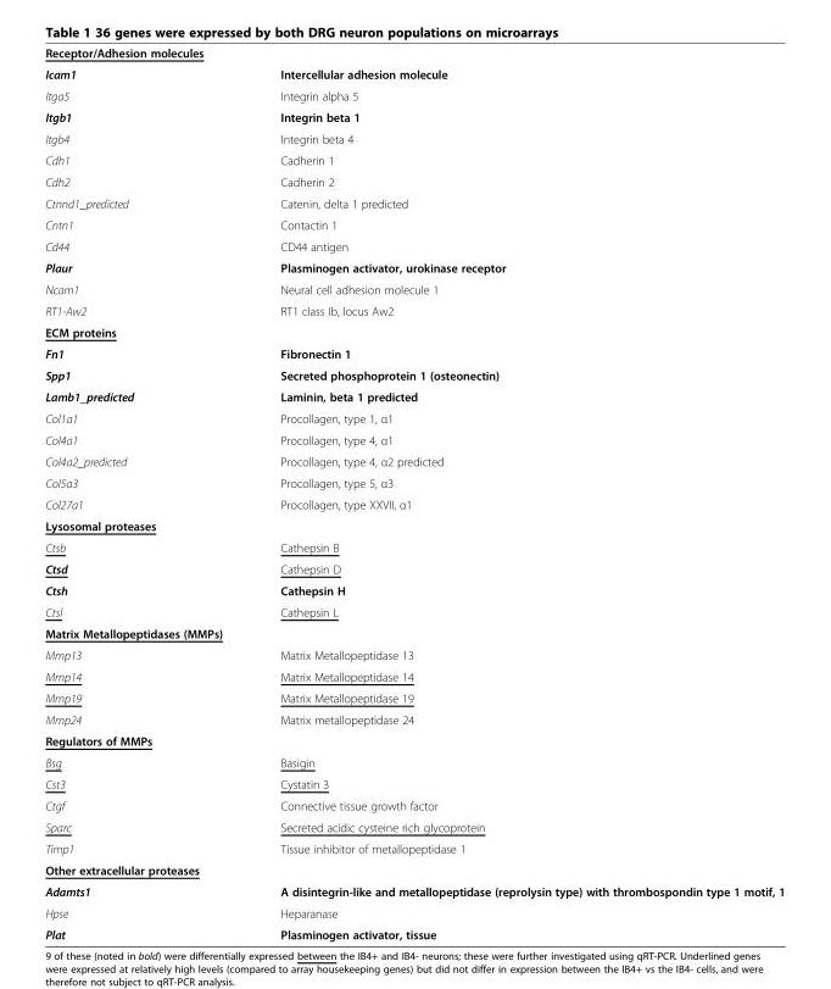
<table><tbody><tr><td colspan="2">Receptor/Adhesion molecules</td></tr><tr><td>Icam1</td><td>Intercellular adhesion molecule</td></tr><tr><td>Itga5</td><td>Integrin alpha 5</td></tr><tr><td>Itgb1</td><td>Integrin beta 1</td></tr><tr><td>Itgb4</td><td>Integrin beta 4</td></tr><tr><td>Cdh1</td><td>Cadherin 1</td></tr><tr><td>Cdh2</td><td>Cadherin 2</td></tr><tr><td>Ctnnd1_predicted</td><td>Catenin, delta 1 predicted</td></tr><tr><td>Cntn1</td><td>Contactin 1</td></tr><tr><td>Cd44</td><td>CD44 antigen</td></tr><tr><td>Plaur</td><td>Plasminogen activator, urokinase receptor</td></tr><tr><td>Ncam1</td><td>Neural cell adhesion molecule 1</td></tr><tr><td>RT1-Aw2</td><td>RT1 class Ib, locus Aw2</td></tr><tr><td colspan="2">ECM proteins</td></tr><tr><td>Fn1</td><td>Fibronectin 1</td></tr><tr><td>Spp1</td><td>Secreted phosphoprotein 1 (osteonectin)</td></tr><tr><td>Lamb1_predicted</td><td>Laminin, beta 1 predicted</td></tr><tr><td>Col1a1</td><td>Procollagen, type 1, α1</td></tr><tr><td>Col4a1</td><td>Procollagen, type 4, α1</td></tr><tr><td>Col4a2_predicted</td><td>Procollagen, type 4, α2 predicted</td></tr><tr><td>Col5a3</td><td>Procollagen, type 5, α3</td></tr><tr><td>Col27a1</td><td>Procollagen, type XXVII, α1</td></tr><tr><td colspan="2">Lysosomal proteases</td></tr><tr><td>Ctsb</td><td>Cathepsin B</td></tr><tr><td>Ctsd</td><td>Cathepsin D</td></tr><tr><td>Ctsh</td><td>Cathepsin H</td></tr><tr><td>Ctsl</td><td>Cathepsin L</td></tr><tr><td colspan="2">Matrix Metallopeptidases (MMPs)</td></tr><tr><td>Mmp13</td><td>Matrix Metallopeptidase 13</td></tr><tr><td>Mmp14</td><td>Matrix Metallopeptidase 14</td></tr><tr><td>Mmp19</td><td>Matrix Metallopeptidase 19</td></tr><tr><td>Mmp24</td><td>Matrix metallopeptidase 24</td></tr><tr><td colspan="2">Regulators of MMPs</td></tr><tr><td>Bsg</td><td>Basigin</td></tr><tr><td>Cst3</td><td>Cystatin 3</td></tr><tr><td>Ctgf</td><td>Connective tissue growth factor</td></tr><tr><td>Sparc</td><td>Secreted acidic cysteine rich glycoprotein</td></tr><tr><td>Timp1</td><td>Tissue inhibitor of metallopeptidase 1</td></tr><tr><td colspan="2">Other extracellular proteases</td></tr><tr><td>Adamts1</td><td>A disintegrin-like and metallopeptidase (reprolysin type) with thrombospondin type 1 motif, 1</td></tr><tr><td>Hpse</td><td>Heparanase</td></tr><tr><td>Plat</td><td>Plasminogen activator, tissue</td></tr></tbody></table>